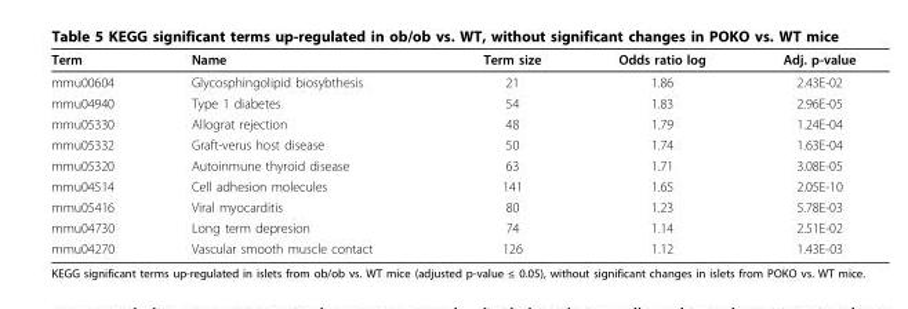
<table><thead><tr><td>Term</td><td>Name</td><td>Term size</td><td>Odds ratio log</td><td>Adj. p-value</td></tr></thead><tbody><tr><td>mmu00604</td><td>Glycosphingolipid biosybthesis</td><td>21</td><td>1.86</td><td>2.43E-02</td></tr><tr><td>mmu04940</td><td>Type 1 diabetes</td><td>54</td><td>1.83</td><td>2.96E-05</td></tr><tr><td>mmu05330</td><td>Allograt rejection</td><td>48</td><td>1.79</td><td>1.24E-04</td></tr><tr><td>mmu05332</td><td>Graft-verus host disease</td><td>50</td><td>1.74</td><td>1.63E-04</td></tr><tr><td>mmu05320</td><td>Autoinmune thyroid disease</td><td>63</td><td>1.71</td><td>3.08E-05</td></tr><tr><td>mmu04514</td><td>Cell adhesion molecules</td><td>141</td><td>1.65</td><td>2.05E-10</td></tr><tr><td>mmu05416</td><td>Viral myocarditis</td><td>80</td><td>1.23</td><td>5.78E-03</td></tr><tr><td>mmu04730</td><td>Long term depresion</td><td>74</td><td>1.14</td><td>2.51E-02</td></tr><tr><td>mmu04270</td><td>Vascular smooth muscle contact</td><td>126</td><td>1.12</td><td>1.43E-03</td></tr></tbody></table>